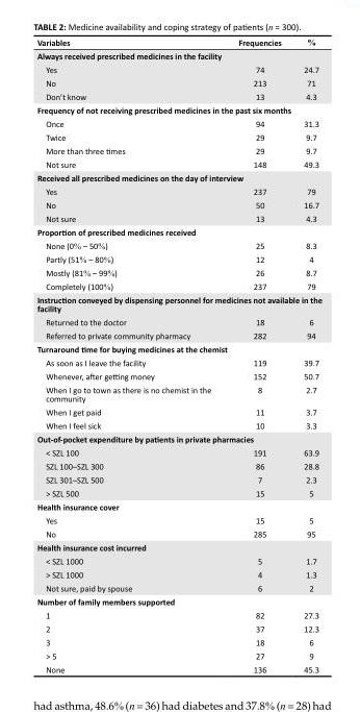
<table><thead><tr><td>Variables</td><td>Frequencies</td><td>%</td></tr></thead><tbody><tr><td colspan="3">Always received prescribed medicines in the facility</td></tr><tr><td>Yes</td><td>74</td><td>24.7</td></tr><tr><td>No</td><td>213</td><td>71</td></tr><tr><td>Don’t know</td><td>13</td><td>4.3</td></tr><tr><td colspan="3">Frequency of not receiving prescribed medicines in the past six months</td></tr><tr><td>Once</td><td>94</td><td>31.3</td></tr><tr><td>Twice</td><td>29</td><td>9.7</td></tr><tr><td>More than three times</td><td>29</td><td>9.7</td></tr><tr><td>Not sure</td><td>148</td><td>49.3</td></tr><tr><td colspan="3">Received all prescribed medicines on the day of interview</td></tr><tr><td>Yes</td><td>237</td><td>79</td></tr><tr><td>No</td><td>50</td><td>16.7</td></tr><tr><td>Not sure</td><td>13</td><td>4.3</td></tr><tr><td colspan="3">Proportion of prescribed medicines received</td></tr><tr><td>None (0% – 50%)</td><td>25</td><td>8.3</td></tr><tr><td>Partly (51% – 80%)</td><td>12</td><td>4</td></tr><tr><td>Mostly (81% – 99%)</td><td>26</td><td>8.7</td></tr><tr><td>Completely (100%)</td><td>237</td><td>79</td></tr><tr><td colspan="3">Instruction conveyed by dispensing personnel for medicines not available in the facility</td></tr><tr><td>Returned to the doctor</td><td>18</td><td>6</td></tr><tr><td>Referred to private community pharmacy</td><td>282</td><td>94</td></tr><tr><td colspan="3">Turnaround time for buying medicines at the chemist</td></tr><tr><td>As soon as I leave the facility</td><td>119</td><td>39.7</td></tr><tr><td>Whenever, after getting money</td><td>152</td><td>50.7</td></tr><tr><td>When I go to town as there is no chemist in the community</td><td>8</td><td>2.7</td></tr><tr><td>When I get paid</td><td>11</td><td>3.7</td></tr><tr><td>When I feel sick</td><td>10</td><td>3.3</td></tr><tr><td colspan="3">Out-of-pocket expenditure by patients in private pharmacies</td></tr><tr><td>˂ SZL 100</td><td>191</td><td>63.9</td></tr><tr><td>SZL 100–SZL 300</td><td>86</td><td>28.8</td></tr><tr><td>SZL 301–SZL 500</td><td>7</td><td>2.3</td></tr><tr><td>˃ SZL 500</td><td>15</td><td>5</td></tr><tr><td colspan="3">Health insurance cover</td></tr><tr><td>Yes</td><td>15</td><td>5</td></tr><tr><td>No</td><td>285</td><td>95</td></tr><tr><td colspan="3">Health insurance cost incurred</td></tr><tr><td>˂ SZL 1000</td><td>5</td><td>1.7</td></tr><tr><td>˃ SZL 1000</td><td>4</td><td>1.3</td></tr><tr><td>Not sure, paid by spouse</td><td>6</td><td>2</td></tr><tr><td colspan="3">Number of family members supported</td></tr><tr><td>1</td><td>82</td><td>27.3</td></tr><tr><td>2</td><td>37</td><td>12.3</td></tr><tr><td>3</td><td>18</td><td>6</td></tr><tr><td>˃ 5</td><td>27</td><td>9</td></tr><tr><td>None</td><td>136</td><td>45.3</td></tr></tbody></table>